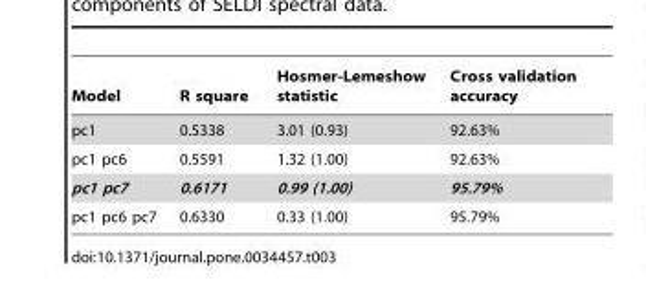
<table><thead><tr><td>Model</td><td>R square</td><td>Hosmer-Lemeshow statistic</td><td>Cross validation accuracy</td></tr></thead><tbody><tr><td>pc1</td><td>0.5338</td><td>3.01 (0.93)</td><td>92.63%</td></tr><tr><td>pc1 pc6</td><td>0.5591</td><td>1.32 (1.00)</td><td>92.63%</td></tr><tr><td>pc1 pc7</td><td>0.6171</td><td>0.99 (1.00)</td><td>95.79%</td></tr><tr><td>pc1 pc6 pc7</td><td>0.6330</td><td>0.33 (1.00)</td><td>95.79%</td></tr></tbody></table>